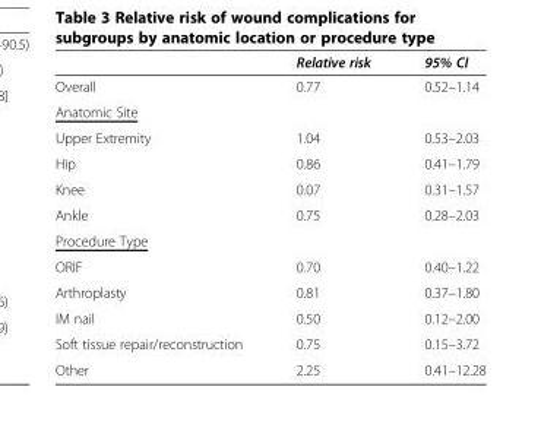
<table><thead><tr><td></td><td>Relative risk</td><td>95% CI</td></tr></thead><tbody><tr><td>Overall</td><td>0.77</td><td>0.52–1.14</td></tr><tr><td colspan="3">Anatomic Site</td></tr><tr><td>Upper Extremity</td><td>1.04</td><td>0.53–2.03</td></tr><tr><td>Hip</td><td>0.86</td><td>0.41–1.79</td></tr><tr><td>Knee</td><td>0.07</td><td>0.31–1.57</td></tr><tr><td>Ankle</td><td>0.75</td><td>0.28–2.03</td></tr><tr><td colspan="3">Procedure Type</td></tr><tr><td>ORIF</td><td>0.70</td><td>0.40–1.22</td></tr><tr><td>Arthroplasty</td><td>0.81</td><td>0.37–1.80</td></tr><tr><td>IM nail</td><td>0.50</td><td>0.12–2.00</td></tr><tr><td>Soft tissue repair/reconstruction</td><td>0.75</td><td>0.15–3.72</td></tr><tr><td>Other</td><td>2.25</td><td>0.41–12.28</td></tr></tbody></table>